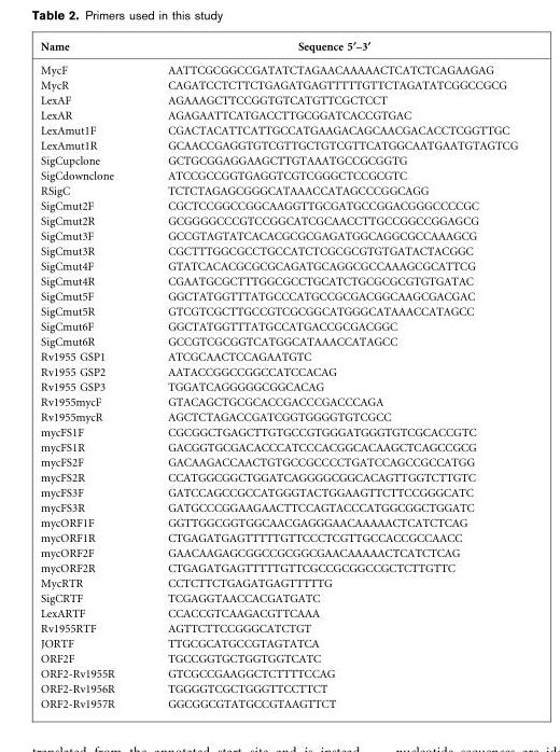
<table><thead><tr><td>Name</td><td>Sequence 5§–3§</td></tr></thead><tbody><tr><td>MycF</td><td>AATTCGCGGCCGATATCTAGAACAAAAACTCATCTCAGAAGAG</td></tr><tr><td>MycR</td><td>CAGATCCTCTTCTGAGATGAGTTTTTGTTCTAGATATCGGCCGCG</td></tr><tr><td>LexAF</td><td>AGAAAGCTTCCGGTGTCATGTTCGCTCCT</td></tr><tr><td>LexAR</td><td>AGAGAATTCATGACCTTGCGGATCACCGTGAC</td></tr><tr><td>LexAmut1F</td><td>CGACTACATTCATTGCCATGAAGACAGCAACGACACCTCGGTTGC</td></tr><tr><td>LexAmut1R</td><td>GCAACCGAGGTGTCGTTGCTGTCGTTCATGGCAATGAATGTAGTCG</td></tr><tr><td>SigCupclone</td><td>GCTGCGGAGGAAGCTTGTAAATGCCGCGGTG</td></tr><tr><td>SigCdownclone</td><td>ATCCGCCGGTGAGGTCGTCGGGCTCCGCGTC</td></tr><tr><td>RSigC</td><td>TCTCTAGAGCGGGCATAAACCATAGCCCGGCAGG</td></tr><tr><td>SigCmut2F</td><td>CGCTCCGGCCGGCAAGGTTGCGATGCCGGACGGGCCCCGC</td></tr><tr><td>SigCmut2R</td><td>GCGGGGCCCGTCCGGCATCGCAACCTTGCCGGCCGGAGCG</td></tr><tr><td>SigCmut3F</td><td>GCCGTAGTATCACACGCGCGAGATGGCAGGCGCCAAAGCG</td></tr><tr><td>SigCmut3R</td><td>CGCTTTGGCGCCTGCCATCTCGCGCGTGTGATACTACGGC</td></tr><tr><td>SigCmut4F</td><td>GTATCACACGCGCGCAGATGCAGGCGCCAAAGCGCATTCG</td></tr><tr><td>SigCmut4R</td><td>CGAATGCGCTTTGGCGCCTGCATCTGCGCGCGTGTGATAC</td></tr><tr><td>SigCmut5F</td><td>GGCTATGGTTTATGCCCATGCCGCGACGGCAAGCGACGAC</td></tr><tr><td>SigCmut5R</td><td>GTCGTCGCTTGCCGTCGCGGCATGGGCATAAACCATAGCC</td></tr><tr><td>SigCmut6F</td><td>GGCTATGGTTTATGCCATGACCGCGACGGC</td></tr><tr><td>SigCmut6R</td><td>GCCGTCGCGGTCATGGCATAAACCATAGCC</td></tr><tr><td>Rv1955 GSP1</td><td>ATCGCAACTCCAGAATGTC</td></tr><tr><td>Rv1955 GSP2</td><td>AATACCGGCCGGCCATCCACAG</td></tr><tr><td>Rv1955 GSP3</td><td>TGGATCAGGGGGCGGCACAG</td></tr><tr><td>Rv1955mycF</td><td>GTACAGCTGCGCACCGACCCGACCCAGA</td></tr><tr><td>Rv1955mycR</td><td>AGCTCTAGACCGATCGGTGGGGTGTCGCC</td></tr><tr><td>mycFS1F</td><td>CGCGGCTGAGCTTGTGCCGTGGGATGGGTGTCGCACCGTC</td></tr><tr><td>mycFS1R</td><td>GACGGTGCGACACCCATCCCACGGCACAAGCTCAGCCGCG</td></tr><tr><td>mycFS2F</td><td>GACAAGACCAACTGTGCCGCCCCTGATCCAGCCGCCATGG</td></tr><tr><td>mycFS2R</td><td>CCATGGCGGCTGGATCAGGGGCGGCACAGTTGGTCTTGTC</td></tr><tr><td>mycFS3F</td><td>GATCCAGCCGCCATGGGTACTGGAAGTTCTTCCGGGCATC</td></tr><tr><td>mycFS3R</td><td>GATGCCCGGAAGAACTTCCAGTACCCATGGCGGCTGGATC</td></tr><tr><td>mycORF1F</td><td>GGTTGGCGGTGGCAACGAGGGAACAAAAACTCATCTCAG</td></tr><tr><td>mycORF1R</td><td>CTGAGATGAGTTTTTGTTCCCTCGTTGCCACCGCCAACC</td></tr><tr><td>mycORF2F</td><td>GAACAAGAGCGGCCGCGGCGAACAAAAACTCATCTCAG</td></tr><tr><td>mycORF2R</td><td>CTGAGATGAGTTTTTGTTCGCCGCGGCCGCTCTTGTTC</td></tr><tr><td>MycRTR</td><td>CCTCTTCTGAGATGAGTTTTTG</td></tr><tr><td>SigCRTF</td><td>TCGAGGTAACCACGATGATC</td></tr><tr><td>LexARTF</td><td>CCACCGTCAAGACGTTCAAA</td></tr><tr><td>Rv1955RTF</td><td>AGTTCTTCCGGGCATCTGT</td></tr><tr><td>JORTF</td><td>TTGCGCATGCCGTAGTATCA</td></tr><tr><td>ORF2F</td><td>TGCCGGTGCTGGTGGTCATC</td></tr><tr><td>ORF2-Rv1955R</td><td>GTCGCCGAAGGCTCTTTTCCAG</td></tr><tr><td>ORF2-Rv1956R</td><td>TGGGGTCGCTGGGTTCCTTCT</td></tr><tr><td>ORF2-Rv1957R</td><td>GGCGGCGTATGCCGTAAGTTCT</td></tr></tbody></table>